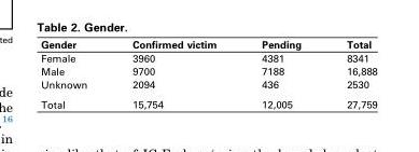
<table><thead><tr><td>Gender</td><td>Confirmed victim</td><td>Pending</td><td>Total</td></tr></thead><tbody><tr><td>Female</td><td>3960</td><td>4381</td><td>8341</td></tr><tr><td>Male</td><td>9700</td><td>7188</td><td>16,888</td></tr><tr><td>Unknown</td><td>2094</td><td>436</td><td>2530</td></tr><tr><td>Total</td><td>15,754</td><td>12,005</td><td>27,759</td></tr></tbody></table>